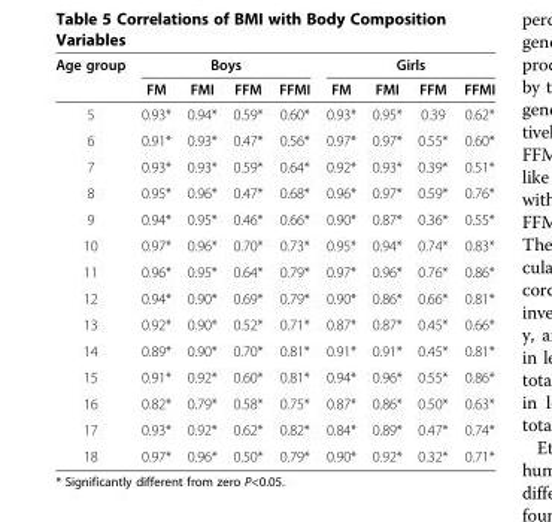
<table><thead><tr><td rowspan="2">Age group</td><td colspan="4">Boys</td><td colspan="4">Girls</td></tr><tr><td>FM</td><td>FMI</td><td>FFM</td><td>FFMI</td><td>FM</td><td>FMI</td><td>FFM</td><td>FFMI</td></tr></thead><tbody><tr><td>5</td><td>0.93*</td><td>0.94*</td><td>0.59*</td><td>0.60*</td><td>0.93*</td><td>0.95*</td><td>0.39</td><td>0.62*</td></tr><tr><td>6</td><td>0.91*</td><td>0.93*</td><td>0.47*</td><td>0.56*</td><td>0.97*</td><td>0.97*</td><td>0.55*</td><td>0.60*</td></tr><tr><td>7</td><td>0.93*</td><td>0.93*</td><td>0.59*</td><td>0.64*</td><td>0.92*</td><td>0.93*</td><td>0.39*</td><td>0.51*</td></tr><tr><td>8</td><td>0.95*</td><td>0.96*</td><td>0.47*</td><td>0.68*</td><td>0.96*</td><td>0.97*</td><td>0.59*</td><td>0.76*</td></tr><tr><td>9</td><td>0.94*</td><td>0.95*</td><td>0.46*</td><td>0.66*</td><td>0.90*</td><td>0.87*</td><td>0.36*</td><td>0.55*</td></tr><tr><td>10</td><td>0.97*</td><td>0.96*</td><td>0.70*</td><td>0.73*</td><td>0.95*</td><td>0.94*</td><td>0.74*</td><td>0.83*</td></tr><tr><td>11</td><td>0.96*</td><td>0.95*</td><td>0.64*</td><td>0.79*</td><td>0.97*</td><td>0.96*</td><td>0.76*</td><td>0.86*</td></tr><tr><td>12</td><td>0.94*</td><td>0.90*</td><td>0.69*</td><td>0.79*</td><td>0.90*</td><td>0.86*</td><td>0.66*</td><td>0.81*</td></tr><tr><td>13</td><td>0.92*</td><td>0.90*</td><td>0.52*</td><td>0.71*</td><td>0.87*</td><td>0.87*</td><td>0.45*</td><td>0.66*</td></tr><tr><td>14</td><td>0.89*</td><td>0.90*</td><td>0.70*</td><td>0.81*</td><td>0.91*</td><td>0.91*</td><td>0.45*</td><td>0.81*</td></tr><tr><td>15</td><td>0.91*</td><td>0.92*</td><td>0.60*</td><td>0.81*</td><td>0.94*</td><td>0.96*</td><td>0.55*</td><td>0.86*</td></tr><tr><td>16</td><td>0.82*</td><td>0.79*</td><td>0.58*</td><td>0.75*</td><td>0.87*</td><td>0.86*</td><td>0.50*</td><td>0.63*</td></tr><tr><td>17</td><td>0.93*</td><td>0.92*</td><td>0.62*</td><td>0.82*</td><td>0.84*</td><td>0.89*</td><td>0.47*</td><td>0.74*</td></tr><tr><td>18</td><td>0.97*</td><td>0.96*</td><td>0.50*</td><td>0.79*</td><td>0.90*</td><td>0.92*</td><td>0.32*</td><td>0.71*</td></tr></tbody></table>